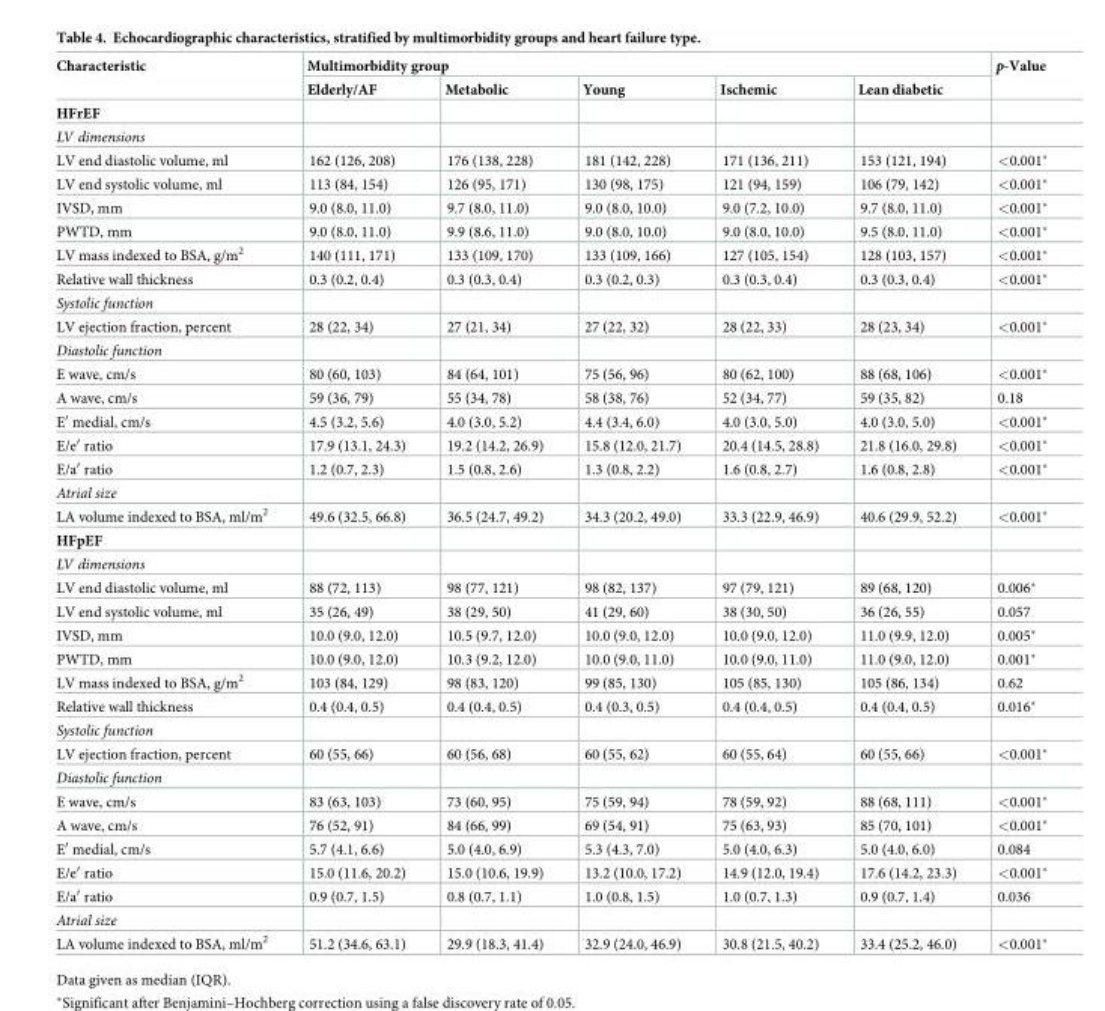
<table><thead><tr><td rowspan="2">Characteristic</td><td colspan="5">Multimorbidity group</td><td rowspan="2">p-Value</td></tr><tr><td>Elderly/AF</td><td>Metabolic</td><td>Young</td><td>Ischemic</td><td>Lean diabetic</td></tr></thead><tbody><tr><td colspan="7">HFrEF</td></tr><tr><td colspan="7">LV dimensions</td></tr><tr><td>LV end diastolic volume, ml</td><td>162 (126, 208)</td><td>176 (138, 228)</td><td>181 (142, 228)</td><td>171 (136, 211)</td><td>153 (121, 194)</td><td>&lt;0.001*</td></tr><tr><td>LV end systolic volume, ml</td><td>113 (84, 154)</td><td>126 (95, 171)</td><td>130 (98, 175)</td><td>121 (94, 159)</td><td>106 (79, 142)</td><td>&lt;0.001*</td></tr><tr><td>IVSD, mm</td><td>9.0 (8.0, 11.0)</td><td>9.7 (8.0, 11.0)</td><td>9.0 (8.0, 10.0)</td><td>9.0 (7.2, 10.0)</td><td>9.7 (8.0, 11.0)</td><td>&lt;0.001*</td></tr><tr><td>PWTD, mm</td><td>9.0 (8.0, 11.0)</td><td>9.9 (8.6, 11.0)</td><td>9.0 (8.0, 10.0)</td><td>9.0 (8.0, 10.0)</td><td>9.5 (8.0, 11.0)</td><td>&lt;0.001*</td></tr><tr><td>LV mass indexed to BSA, g/m<sup>2</sup></td><td>140 (111, 171)</td><td>133 (109, 170)</td><td>133 (109, 166)</td><td>127 (105, 154)</td><td>128 (103, 157)</td><td>&lt;0.001*</td></tr><tr><td>Relative wall thickness</td><td>0.3 (0.2, 0.4)</td><td>0.3 (0.3, 0.4)</td><td>0.3 (0.2, 0.3)</td><td>0.3 (0.3, 0.4)</td><td>0.3 (0.3, 0.4)</td><td>&lt;0.001*</td></tr><tr><td colspan="7">Systolic function</td></tr><tr><td>LV ejection fraction, percent</td><td>28 (22, 34)</td><td>27 (21, 34)</td><td>27 (22, 32)</td><td>28 (22, 33)</td><td>28 (23, 34)</td><td>&lt;0.001*</td></tr><tr><td colspan="7">Diastolic function</td></tr><tr><td>E wave, cm/s</td><td>80 (60, 103)</td><td>84 (64, 101)</td><td>75 (56, 96)</td><td>80 (62, 100)</td><td>88 (68, 106)</td><td>&lt;0.001*</td></tr><tr><td>A wave, cm/s</td><td>59 (36, 79)</td><td>55 (34, 78)</td><td>58 (38, 76)</td><td>52 (34, 77)</td><td>59 (35, 82)</td><td>0.18</td></tr><tr><td>E′ medial, cm/s</td><td>4.5 (3.2, 5.6)</td><td>4.0 (3.0, 5.2)</td><td>4.4 (3.4, 6.0)</td><td>4.0 (3.0, 5.0)</td><td>4.0 (3.0, 5.0)</td><td>&lt;0.001*</td></tr><tr><td>E/e′ ratio</td><td>17.9 (13.1, 24.3)</td><td>19.2 (14.2, 26.9)</td><td>15.8 (12.0, 21.7)</td><td>20.4 (14.5, 28.8)</td><td>21.8 (16.0, 29.8)</td><td>&lt;0.001*</td></tr><tr><td>E/a′ ratio</td><td>1.2 (0.7, 2.3)</td><td>1.5 (0.8, 2.6)</td><td>1.3 (0.8, 2.2)</td><td>1.6 (0.8, 2.7)</td><td>1.6 (0.8, 2.8)</td><td>&lt;0.001*</td></tr><tr><td colspan="7">Atrial size</td></tr><tr><td>LA volume indexed to BSA, ml/m<sup>2</sup></td><td>49.6 (32.5, 66.8)</td><td>36.5 (24.7, 49.2)</td><td>34.3 (20.2, 49.0)</td><td>33.3 (22.9, 46.9)</td><td>40.6 (29.9, 52.2)</td><td>&lt;0.001*</td></tr><tr><td colspan="7">HFpEF</td></tr><tr><td colspan="7">LV dimensions</td></tr><tr><td>LV end diastolic volume, ml</td><td>88 (72, 113)</td><td>98 (77, 121)</td><td>98 (82, 137)</td><td>97 (79, 121)</td><td>89 (68, 120)</td><td>0.006*</td></tr><tr><td>LV end systolic volume, ml</td><td>35 (26, 49)</td><td>38 (29, 50)</td><td>41 (29, 60)</td><td>38 (30, 50)</td><td>36 (26, 55)</td><td>0.057</td></tr><tr><td>IVSD, mm</td><td>10.0 (9.0, 12.0)</td><td>10.5 (9.7, 12.0)</td><td>10.0 (9.0, 12.0)</td><td>10.0 (9.0, 12.0)</td><td>11.0 (9.9, 12.0)</td><td>0.005*</td></tr><tr><td>PWTD, mm</td><td>10.0 (9.0, 12.0)</td><td>10.3 (9.2, 12.0)</td><td>10.0 (9.0, 11.0)</td><td>10.0 (9.0, 11.0)</td><td>11.0 (9.0, 12.0)</td><td>0.001*</td></tr><tr><td>LV mass indexed to BSA, g/m<sup>2</sup></td><td>103 (84, 129)</td><td>98 (83, 120)</td><td>99 (85, 130)</td><td>105 (85, 130)</td><td>105 (86, 134)</td><td>0.62</td></tr><tr><td>Relative wall thickness</td><td>0.4 (0.4, 0.5)</td><td>0.4 (0.4, 0.5)</td><td>0.4 (0.3, 0.5)</td><td>0.4 (0.4, 0.5)</td><td>0.4 (0.4, 0.5)</td><td>0.016*</td></tr><tr><td colspan="7">Systolic function</td></tr><tr><td>LV ejection fraction, percent</td><td>60 (55, 66)</td><td>60 (56, 68)</td><td>60 (55, 62)</td><td>60 (55, 64)</td><td>60 (55, 66)</td><td>&lt;0.001*</td></tr><tr><td colspan="7">Diastolic function</td></tr><tr><td>E wave, cm/s</td><td>83 (63, 103)</td><td>73 (60, 95)</td><td>75 (59, 94)</td><td>78 (59, 92)</td><td>88 (68, 111)</td><td>&lt;0.001*</td></tr><tr><td>A wave, cm/s</td><td>76 (52, 91)</td><td>84 (66, 99)</td><td>69 (54, 91)</td><td>75 (63, 93)</td><td>85 (70, 101)</td><td>&lt;0.001*</td></tr><tr><td>E′ medial, cm/s</td><td>5.7 (4.1, 6.6)</td><td>5.0 (4.0, 6.9)</td><td>5.3 (4.3, 7.0)</td><td>5.0 (4.0, 6.3)</td><td>5.0 (4.0, 6.0)</td><td>0.084</td></tr><tr><td>E/e′ ratio</td><td>15.0 (11.6, 20.2)</td><td>15.0 (10.6, 19.9)</td><td>13.2 (10.0, 17.2)</td><td>14.9 (12.0, 19.4)</td><td>17.6 (14.2, 23.3)</td><td>&lt;0.001*</td></tr><tr><td>E/a′ ratio</td><td>0.9 (0.7, 1.5)</td><td>0.8 (0.7, 1.1)</td><td>1.0 (0.8, 1.5)</td><td>1.0 (0.7, 1.3)</td><td>0.9 (0.7, 1.4)</td><td>0.036</td></tr><tr><td colspan="7">Atrial size</td></tr><tr><td>LA volume indexed to BSA, ml/m<sup>2</sup></td><td>51.2 (34.6, 63.1)</td><td>29.9 (18.3, 41.4)</td><td>32.9 (24.0, 46.9)</td><td>30.8 (21.5, 40.2)</td><td>33.4 (25.2, 46.0)</td><td>&lt;0.001*</td></tr></tbody></table>